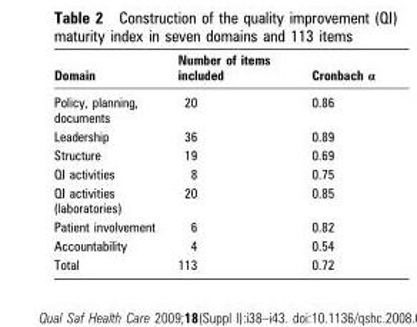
<table><thead><tr><td>Domain</td><td>Number of items included</td><td>Cronbach</td></tr></thead><tbody><tr><td>Policy, planning, documents</td><td>20</td><td>0.86</td></tr><tr><td>Leadership</td><td>36</td><td>0.89</td></tr><tr><td>Structure</td><td>19</td><td>0.69</td></tr><tr><td>QI activities</td><td>8</td><td>0.75</td></tr><tr><td>QI activities (laboratories)</td><td>20</td><td>0.85</td></tr><tr><td>Patient involvement</td><td>6</td><td>0.82</td></tr><tr><td>Accountability</td><td>4</td><td>0.54</td></tr><tr><td>Total</td><td>113</td><td>0.72</td></tr></tbody></table>